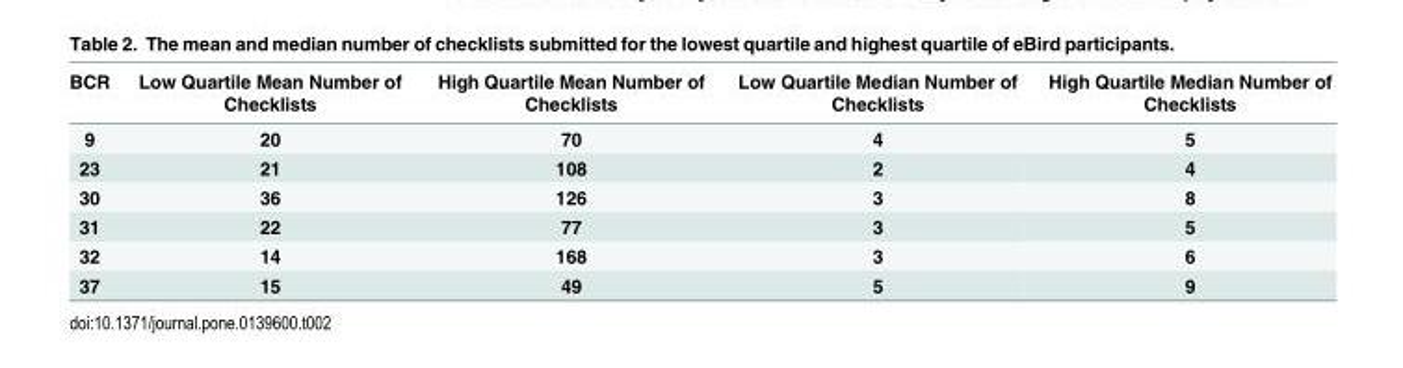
<table><thead><tr><td>BCR</td><td>Low Quartile Mean Number of Checklists</td><td>High Quartile Mean Number of Checklists</td><td>Low Quartile Median Number of Checklists</td><td>High Quartile Median Number of Checklists</td></tr></thead><tbody><tr><td>9</td><td>20</td><td>70</td><td>4</td><td>5</td></tr><tr><td>23</td><td>21</td><td>108</td><td>2</td><td>4</td></tr><tr><td>30</td><td>36</td><td>126</td><td>3</td><td>8</td></tr><tr><td>31</td><td>22</td><td>77</td><td>3</td><td>5</td></tr><tr><td>32</td><td>14</td><td>168</td><td>3</td><td>6</td></tr><tr><td>37</td><td>15</td><td>49</td><td>5</td><td>9</td></tr></tbody></table>